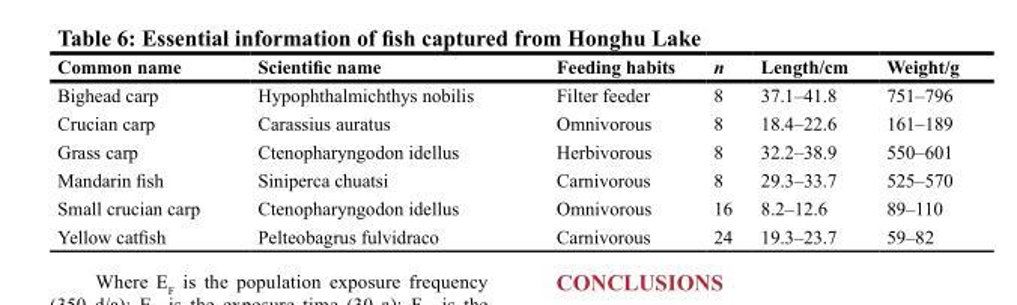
<table><thead><tr><td>Common name</td><td>Scientific name</td><td>Feeding habits</td><td>n</td><td>Length/cm</td><td>Weight/g</td></tr></thead><tbody><tr><td>Bighead carp</td><td>Hypophthalmichthys nobilis</td><td>Filter feeder</td><td>8</td><td>37.1–41.8</td><td>751–796</td></tr><tr><td>Crucian carp</td><td>Carassius auratus</td><td>Omnivorous</td><td>8</td><td>18.4–22.6</td><td>161–189</td></tr><tr><td>Grass carp</td><td>Ctenopharyngodon idellus</td><td>Herbivorous</td><td>8</td><td>32.2–38.9</td><td>550–601</td></tr><tr><td>Mandarin fish</td><td>Siniperca chuatsi</td><td>Carnivorous</td><td>8</td><td>29.3–33.7</td><td>525–570</td></tr><tr><td>Small crucian carp</td><td>Ctenopharyngodon idellus</td><td>Omnivorous</td><td>16</td><td>8.2–12.6</td><td>89–110</td></tr><tr><td>Yellow catfish</td><td>Pelteobagrus fulvidraco</td><td>Carnivorous</td><td>24</td><td>19.3–23.7</td><td>59–82</td></tr></tbody></table>